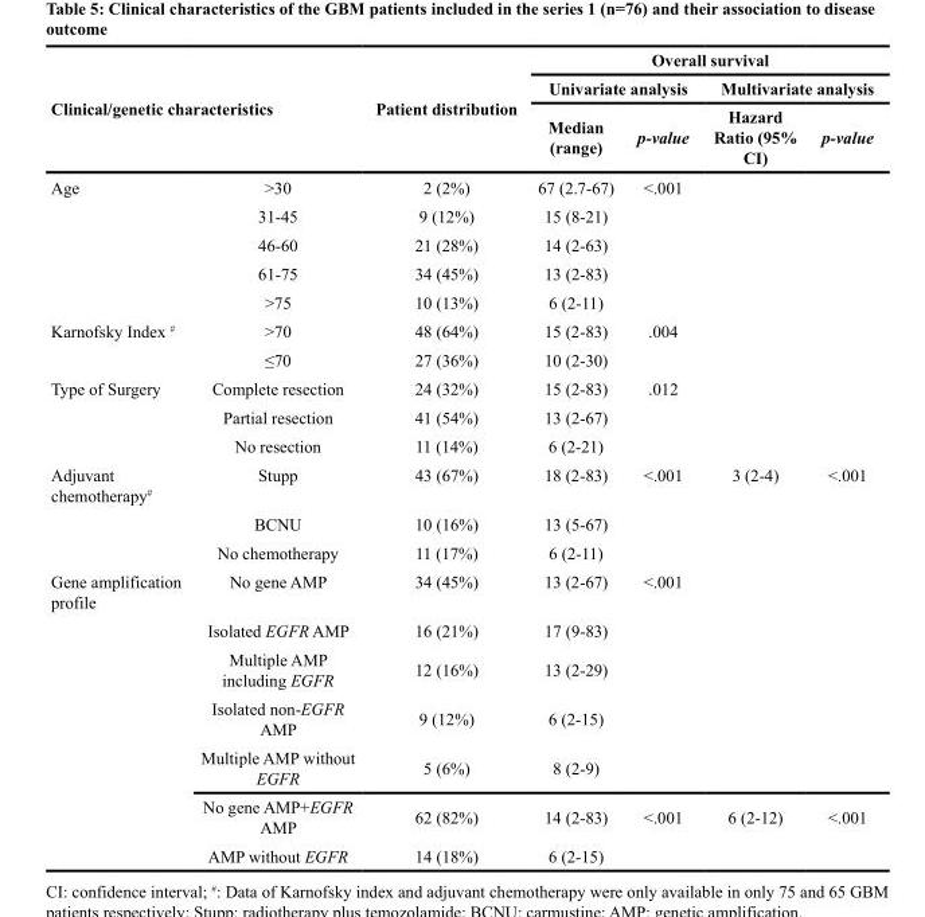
<table><thead><tr><td rowspan="3" colspan="2">Clinical/genetic characteristics</td><td rowspan="4">Patient distribution 2 (2%)</td><td colspan="4">Overall survival</td></tr><tr><td colspan="2">Univariate analysis</td><td colspan="2">Multivariate analysis</td></tr><tr><td rowspan="2">Median (range) 67 (2.7-67)</td><td rowspan="2">p-value &lt;.001</td><td rowspan="2">Hazard Ratio (95% CI)</td><td rowspan="2">p-value</td></tr><tr><td>Age</td><td>&gt;30</td></tr></thead><tbody><tr><td></td><td>31-45</td><td>9 (12%)</td><td>15 (8-21)</td><td></td><td></td><td></td></tr><tr><td></td><td>46-60</td><td>21 (28%)</td><td>14 (2-63)</td><td></td><td></td><td></td></tr><tr><td></td><td>61-75</td><td>34 (45%)</td><td>13 (2-83)</td><td></td><td></td><td></td></tr><tr><td></td><td>&gt;75</td><td>10 (13%)</td><td>6 (2-11)</td><td></td><td></td><td></td></tr><tr><td rowspan="2">Karnofsky Index <sup>#</sup></td><td>&gt;70</td><td>48 (64%)</td><td>15 (2-83)</td><td>.004</td><td></td><td></td></tr><tr><td>≤70</td><td>27 (36%)</td><td>10 (2-30)</td><td></td><td></td><td></td></tr><tr><td rowspan="3">Type of Surgery</td><td>Complete resection</td><td>24 (32%)</td><td>15 (2-83)</td><td>.012</td><td></td><td></td></tr><tr><td>Partial resection</td><td>41 (54%)</td><td>13 (2-67)</td><td></td><td></td><td></td></tr><tr><td>No resection</td><td>11 (14%)</td><td>6 (2-21)</td><td></td><td></td><td></td></tr><tr><td rowspan="3">Adjuvant chemotherapy<sup>#</sup></td><td>Stupp</td><td>43 (67%)</td><td>18 (2-83)</td><td>&lt;.001</td><td>3 (2-4)</td><td>&lt;.001</td></tr><tr><td>BCNU</td><td>10 (16%)</td><td>13 (5-67)</td><td></td><td></td><td></td></tr><tr><td>No chemotherapy</td><td>11 (17%)</td><td>6 (2-11)</td><td></td><td></td><td></td></tr><tr><td rowspan="7">Gene amplification profile</td><td>No gene AMP</td><td>34 (45%)</td><td>13 (2-67)</td><td>&lt;.001</td><td></td><td></td></tr><tr><td>Isolated EGFR AMP</td><td>16 (21%)</td><td>17 (9-83)</td><td></td><td></td><td></td></tr><tr><td>Multiple AMP including EGFR</td><td>12 (16%)</td><td>13 (2-29)</td><td></td><td></td><td></td></tr><tr><td>Isolated non-EGFR AMP</td><td>9 (12%)</td><td>6 (2-15)</td><td></td><td></td><td></td></tr><tr><td>Multiple AMP without EGFR</td><td>5 (6%)</td><td>8 (2-9)</td><td></td><td></td><td></td></tr><tr><td>No gene AMP+EGFR AMP</td><td>62 (82%)</td><td>14 (2-83)</td><td>&lt;.001</td><td>6 (2-12)</td><td>&lt;.001</td></tr><tr><td>AMP without EGFR</td><td>14 (18%)</td><td>6 (2-15)</td><td></td><td></td><td></td></tr></tbody></table>